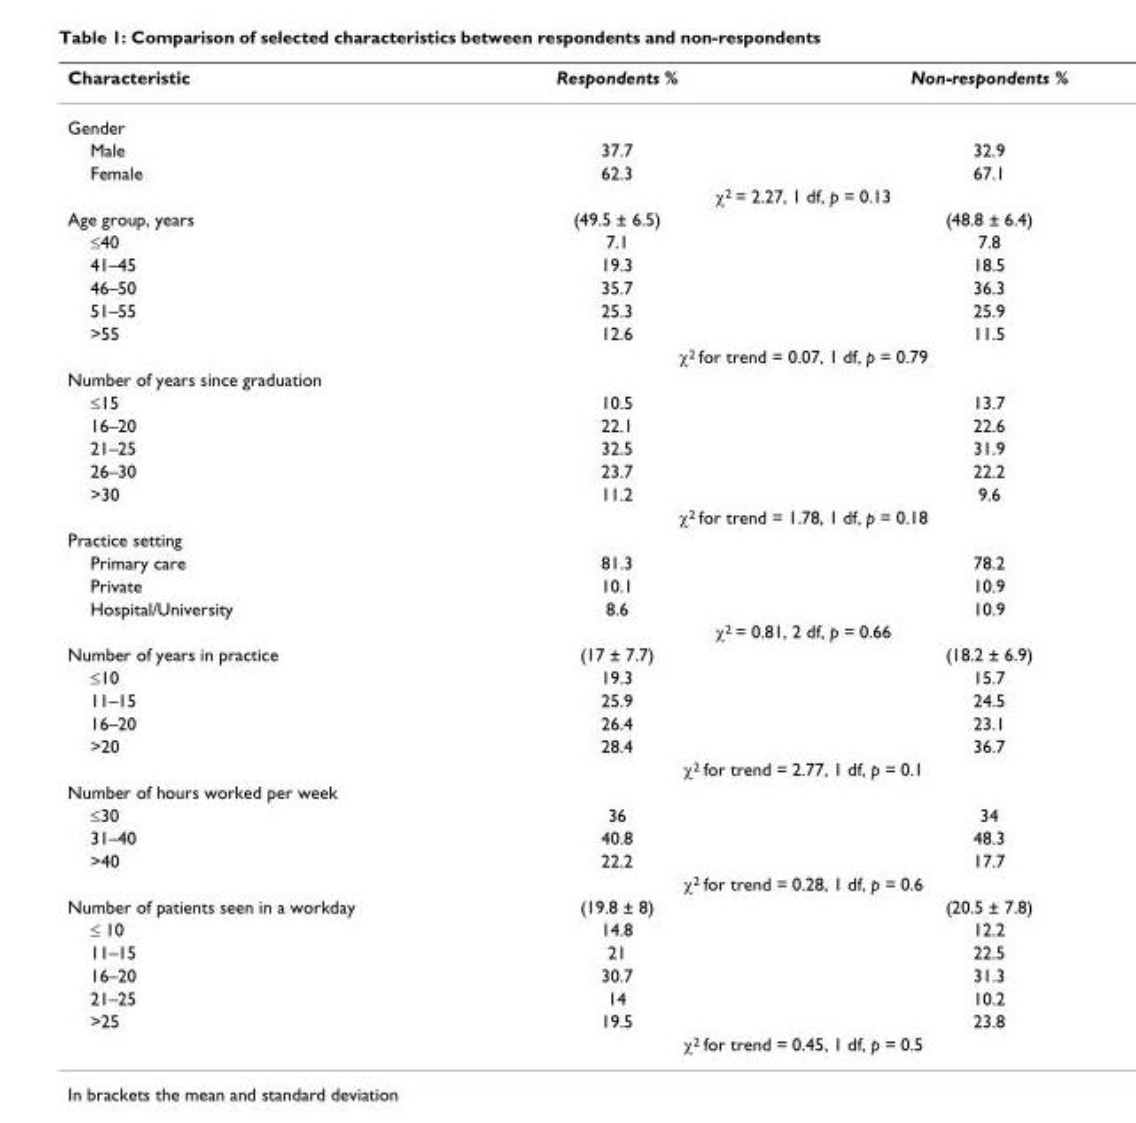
<table><thead><tr><td>Characteristic</td><td>Respondents %</td><td>Non-respondents %</td></tr></thead><tbody><tr><td colspan="3">Gender</td></tr><tr><td>Male</td><td>37.7</td><td>32.9</td></tr><tr><td rowspan="2">Female</td><td>62.3</td><td>67.1</td></tr><tr><td colspan="2">χ2 = 2.27, 1 df, p = 0.13</td></tr><tr><td>Age group, years</td><td>(49.5 ± 6.5)</td><td>(48.8 ± 6.4)</td></tr><tr><td>≤40</td><td>7.1</td><td>7.8</td></tr><tr><td>41–45</td><td>19.3</td><td>18.5</td></tr><tr><td>46–50</td><td>35.7</td><td>36.3</td></tr><tr><td>51–55</td><td>25.3</td><td>25.9</td></tr><tr><td rowspan="2">&gt;55</td><td>12.6</td><td>11.5</td></tr><tr><td colspan="2">χ2 for trend = 0.07, 1 df, p = 0.79</td></tr><tr><td colspan="3">Number of years since graduation</td></tr><tr><td>≤15</td><td>10.5</td><td>13.7</td></tr><tr><td>16–20</td><td>22.1</td><td>22.6</td></tr><tr><td>21–25</td><td>32.5</td><td>31.9</td></tr><tr><td>26–30</td><td>23.7</td><td>22.2</td></tr><tr><td rowspan="2">&gt;30</td><td>11.2</td><td>9.6</td></tr><tr><td colspan="2">χ2 for trend = 1.78, 1 df, p = 0.18</td></tr><tr><td colspan="3">Practice setting</td></tr><tr><td>Primary care</td><td>81.3</td><td>78.2</td></tr><tr><td>Private</td><td>10.1</td><td>10.9</td></tr><tr><td rowspan="2">Hospital/University</td><td>8.6</td><td>10.9</td></tr><tr><td colspan="2">χ2 = 0.81, 2 df, p = 0.66</td></tr><tr><td>Number of years in practice</td><td>(17 ± 7.7)</td><td>(18.2 ± 6.9)</td></tr><tr><td>≤10</td><td>19.3</td><td>15.7</td></tr><tr><td>11–15</td><td>25.9</td><td>24.5</td></tr><tr><td>16–20</td><td>26.4</td><td>23.1</td></tr><tr><td rowspan="2">&gt;20</td><td>28.4</td><td>36.7</td></tr><tr><td colspan="2">χ2 for trend = 2.77, 1 df, p = 0.1</td></tr><tr><td colspan="3">Number of hours worked per week</td></tr><tr><td>≤30</td><td>36</td><td>34</td></tr><tr><td>31–40</td><td>40.8</td><td>48.3</td></tr><tr><td rowspan="2">&gt;40</td><td>22.2</td><td>17.7</td></tr><tr><td colspan="2">χ2 for trend = 0.28, 1 df, p = 0.6</td></tr><tr><td>Number of patients seen in a workday</td><td>(19.8 ± 8)</td><td>(20.5 ± 7.8)</td></tr><tr><td>≤ 10</td><td>14.8</td><td>12.2</td></tr><tr><td>11–15</td><td>21</td><td>22.5</td></tr><tr><td>16–20</td><td>30.7</td><td>31.3</td></tr><tr><td>21–25</td><td>14</td><td>10.2</td></tr><tr><td rowspan="2">&gt;25</td><td>19.5</td><td>23.8</td></tr><tr><td colspan="2">χ2 for trend = 0.45, 1 df, p = 0.5</td></tr></tbody></table>